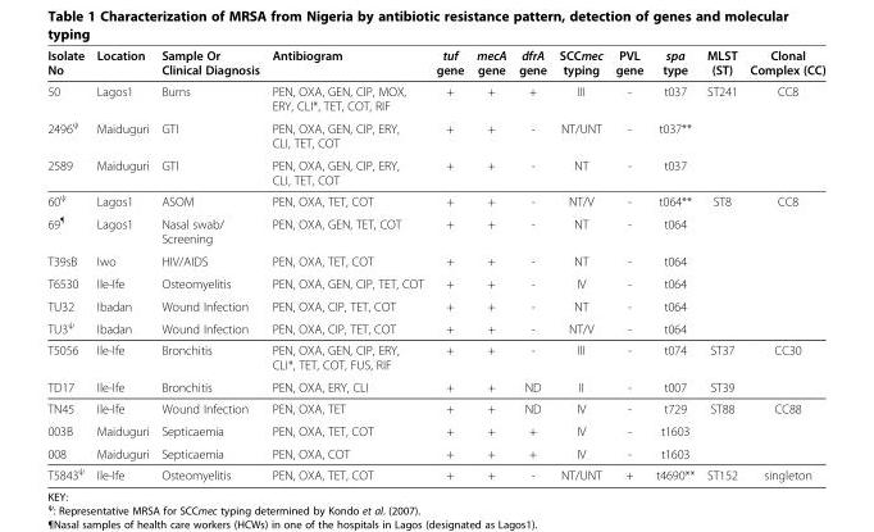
<table><thead><tr><td>Isolate No</td><td>Location</td><td>Sample Or Clinical Diagnosis</td><td>Antibiogram</td><td>tuf gene</td><td>mecA gene</td><td>dfrA gene</td><td>SCCmec typing</td><td>PVL gene</td><td>spa type</td><td>MLST (ST)</td><td>Clonal Complex (CC)</td></tr></thead><tbody><tr><td>50</td><td>Lagos1</td><td>Burns</td><td>PEN, OXA, GEN, CIP, MOX, ERY, CLI*, TET, COT, RIF</td><td>+</td><td>+</td><td>+</td><td>III</td><td>-</td><td>t037</td><td rowspan="3">ST241</td><td rowspan="3">CC8</td></tr><tr><td>2496<sup>ψ</sup></td><td>Maiduguri</td><td>GTI</td><td>PEN, OXA, GEN, CIP, ERY, CLI, TET, COT</td><td>+</td><td>+</td><td>-</td><td>NT/UNT</td><td>-</td><td>t037**</td></tr><tr><td>2589</td><td>Maiduguri</td><td>GTI</td><td>PEN, OXA, GEN, CIP, ERY, CLI, TET, COT</td><td>+</td><td>+</td><td>-</td><td>NT</td><td>-</td><td>t037</td></tr><tr><td>60<sup>ψ</sup></td><td>Lagos1</td><td>ASOM</td><td>PEN, OXA, TET, COT</td><td>+</td><td>+</td><td>-</td><td>NT/V</td><td>-</td><td>t064**</td><td rowspan="6">ST8</td><td rowspan="6">CC8</td></tr><tr><td>69<sup>¶</sup></td><td>Lagos1</td><td>Nasal swab/ Screening</td><td>PEN, OXA, GEN, TET, COT</td><td>+</td><td>+</td><td>-</td><td>NT</td><td>-</td><td>t064</td></tr><tr><td>T39sB</td><td>Iwo</td><td>HIV/AIDS</td><td>PEN, OXA, TET, COT</td><td>+</td><td>+</td><td>-</td><td>NT</td><td>-</td><td>t064</td></tr><tr><td>T6530</td><td>Ile-Ife</td><td>Osteomyelitis</td><td>PEN, OXA, GEN, CIP, TET, COT</td><td>+</td><td>+</td><td>-</td><td>IV</td><td>-</td><td>t064</td></tr><tr><td>TU32</td><td>Ibadan</td><td>Wound Infection</td><td>PEN, OXA, CIP, TET, COT</td><td>+</td><td>+</td><td>-</td><td>NT</td><td>-</td><td>t064</td></tr><tr><td>TU3<sup>ψ</sup></td><td>Ibadan</td><td>Wound Infection</td><td>PEN, OXA, CIP, TET, COT</td><td>+</td><td>+</td><td>-</td><td>NT/V</td><td>-</td><td>t064</td></tr><tr><td>T5056</td><td>Ile-Ife</td><td>Bronchitis</td><td>PEN, OXA, GEN, CIP, ERY, CLI*, TET, COT, FUS, RIF</td><td>+</td><td>+</td><td>-</td><td>III</td><td>-</td><td>t074</td><td>ST37</td><td rowspan="2">CC30</td></tr><tr><td>TD17</td><td>Ile-Ife</td><td>Bronchitis</td><td>PEN, OXA, ERY, CLI</td><td>+</td><td>+</td><td>ND</td><td>II</td><td>-</td><td>t007</td><td>ST39</td></tr><tr><td>TN45</td><td>Ile-Ife</td><td>Wound Infection</td><td>PEN, OXA, TET</td><td>+</td><td>+</td><td>ND</td><td>IV</td><td>-</td><td>t729</td><td rowspan="3">ST88</td><td rowspan="3">CC88</td></tr><tr><td>003B</td><td>Maiduguri</td><td>Septicaemia</td><td>PEN, OXA, TET, COT</td><td>+</td><td>+</td><td>+</td><td>IV</td><td>-</td><td>t1603</td></tr><tr><td>008</td><td>Maiduguri</td><td>Septicaemia</td><td>PEN, OXA, COT</td><td>+</td><td>+</td><td>+</td><td>IV</td><td>-</td><td>t1603</td></tr><tr><td>T5843<sup>ψ</sup></td><td>Ile-Ife</td><td>Osteomyelitis</td><td>PEN, OXA, TET, COT</td><td>+</td><td>+</td><td>-</td><td>NT/UNT</td><td>+</td><td>t4690**</td><td>ST152</td><td>singleton</td></tr></tbody></table>